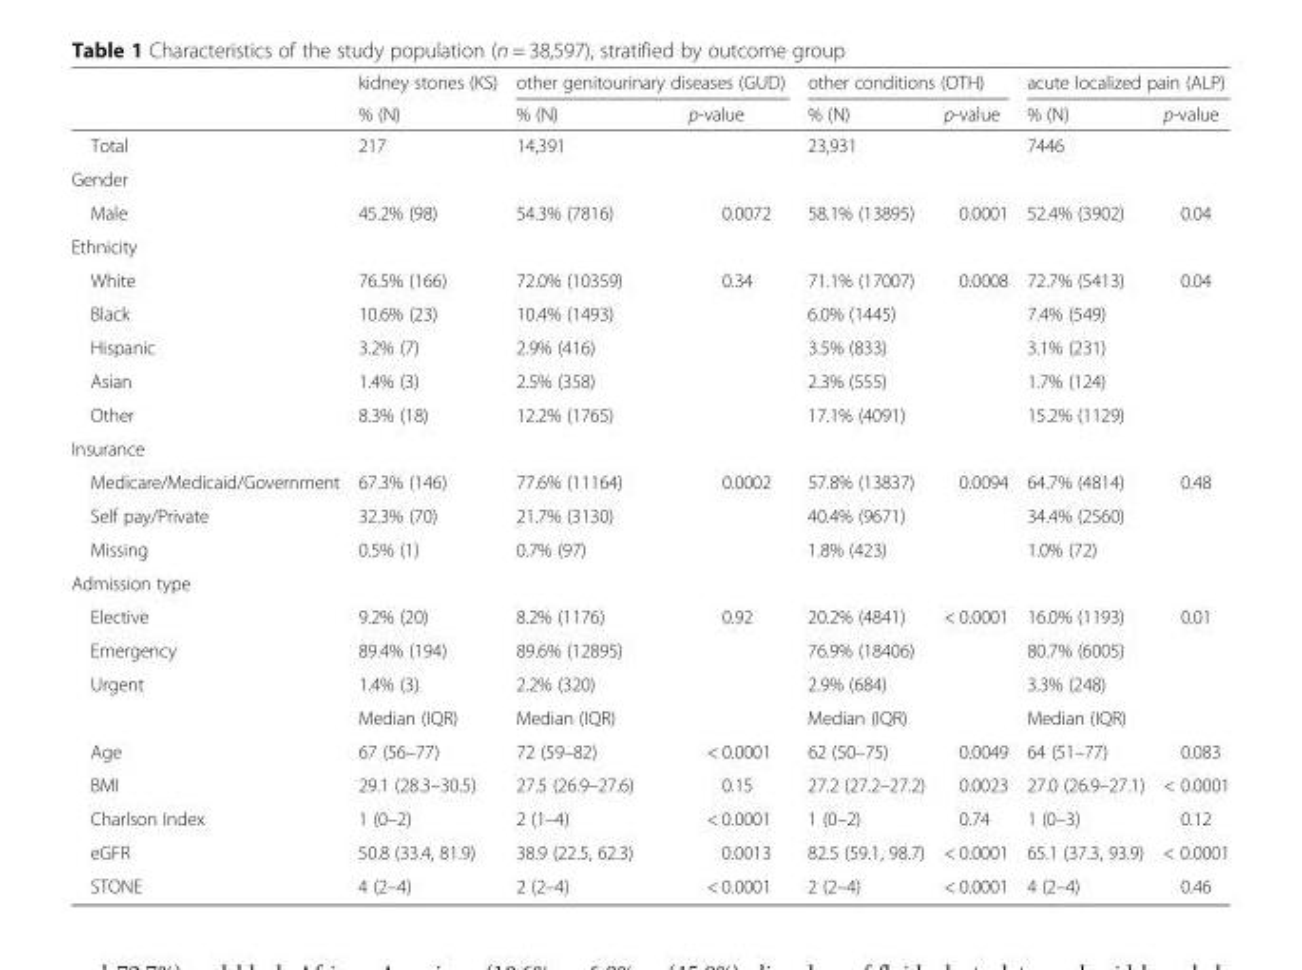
<table><thead><tr><td rowspan="2"></td><td rowspan="2">kidney stones (KS) % (N)</td><td colspan="2">other genitourinary diseases (GUD)</td><td colspan="2">other conditions (OTH)</td><td colspan="2">acute localized pain (ALP)</td></tr><tr><td>% (N)</td><td>p-value</td><td>% (N)</td><td>p-value</td><td>% (N)</td><td>p-value</td></tr></thead><tbody><tr><td>Total</td><td>217</td><td>14,391</td><td></td><td>23,931</td><td></td><td>7446</td><td></td></tr><tr><td colspan="8">Gender</td></tr><tr><td>Male</td><td>45.2% (98)</td><td>54.3% (7816)</td><td>0.0072</td><td>58.1% (13895)</td><td>0.0001</td><td>52.4% (3902)</td><td>0.04</td></tr><tr><td colspan="8">Ethnicity</td></tr><tr><td>White</td><td>76.5% (166)</td><td>72.0% (10359)</td><td rowspan="5">0.34</td><td>71.1% (17007)</td><td rowspan="5">0.0008</td><td>72.7% (5413)</td><td rowspan="5">0.04</td></tr><tr><td>Black</td><td>10.6% (23)</td><td>10.4% (1493)</td><td>6.0% (1445)</td><td>7.4% (549)</td></tr><tr><td>Hispanic</td><td>3.2% (7)</td><td>2.9% (416)</td><td>3.5% (833)</td><td>3.1% (231)</td></tr><tr><td>Asian</td><td>1.4% (3)</td><td>2.5% (358)</td><td>2.3% (555)</td><td>1.7% (124)</td></tr><tr><td>Other</td><td>8.3% (18)</td><td>12.2% (1765)</td><td>17.1% (4091)</td><td>15.2% (1129)</td></tr><tr><td colspan="8">Insurance</td></tr><tr><td>Medicare/Medicaid/Government</td><td>67.3% (146)</td><td>77.6% (11164)</td><td rowspan="3">0.0002</td><td>57.8% (13837)</td><td rowspan="3">0.0094</td><td>64.7% (4814)</td><td>0.48</td></tr><tr><td>Self pay/Private</td><td>32.3% (70)</td><td>21.7% (3130)</td><td>40.4% (9671)</td><td>34.4% (2560)</td><td></td></tr><tr><td>Missing</td><td>0.5% (1)</td><td>0.7% (97)</td><td>1.8% (423)</td><td>1.0% (72)</td><td></td></tr><tr><td colspan="8">Admission type</td></tr><tr><td>Elective</td><td>9.2% (20)</td><td>8.2% (1176)</td><td rowspan="3">0.92</td><td>20.2% (4841)</td><td rowspan="3">&lt; 0.0001</td><td>16.0% (1193)</td><td rowspan="3">0.01</td></tr><tr><td>Emergency</td><td>89.4% (194)</td><td>89.6% (12895)</td><td>76.9% (18406)</td><td>80.7% (6005)</td></tr><tr><td rowspan="2">Urgent</td><td>1.4% (3)</td><td>2.2% (320)</td><td>2.9% (684)</td><td>3.3% (248)</td></tr><tr><td>Median (IQR)</td><td>Median (IQR)</td><td></td><td>Median (IQR)</td><td></td><td>Median (IQR)</td><td></td></tr><tr><td>Age</td><td>67 (56–77)</td><td>72 (59–82)</td><td>&lt; 0.0001</td><td>62 (50–75)</td><td>0.0049</td><td>64 (51–77)</td><td>0.083</td></tr><tr><td>BMI</td><td>29.1 (28.3–30.5)</td><td>27.5 (26.9–27.6)</td><td>0.15</td><td>27.2 (27.2–27.2)</td><td>0.0023</td><td>27.0 (26.9–27.1)</td><td>&lt; 0.0001</td></tr><tr><td>Charlson Index</td><td>1 (0–2)</td><td>2 (1–4)</td><td>&lt; 0.0001</td><td>1 (0–2)</td><td>0.74</td><td>1 (0–3)</td><td>0.12</td></tr><tr><td>eGFR</td><td>50.8 (33.4, 81.9)</td><td>38.9 (22.5, 62.3)</td><td>0.0013</td><td>82.5 (59.1, 98.7)</td><td>&lt; 0.0001</td><td>65.1 (37.3, 93.9)</td><td>&lt; 0.0001</td></tr><tr><td>STONE</td><td>4 (2–4)</td><td>2 (2–4)</td><td>&lt; 0.0001</td><td>2 (2–4)</td><td>&lt; 0.0001</td><td>4 (2–4)</td><td>0.46</td></tr></tbody></table>